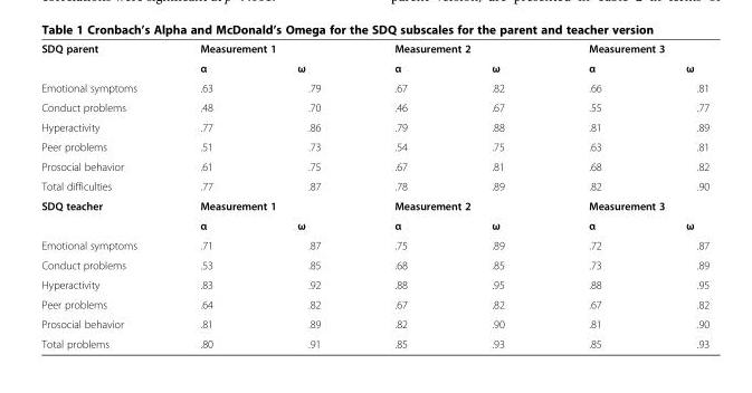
<table><tbody><tr><td rowspan="2">SDQ parent</td><td colspan="2">Measurement 1</td><td colspan="2">Measurement 2</td><td colspan="2">Measurement 3</td></tr><tr><td>α</td><td>ω</td><td>α</td><td>ω</td><td>α</td><td>ω</td></tr><tr><td>Emotional symptoms</td><td>.63</td><td>.79</td><td>.67</td><td>.82</td><td>.66</td><td>.81</td></tr><tr><td>Conduct problems</td><td>.48</td><td>.70</td><td>.46</td><td>.67</td><td>.55</td><td>.77</td></tr><tr><td>Hyperactivity</td><td>.77</td><td>.86</td><td>.79</td><td>.88</td><td>.81</td><td>.89</td></tr><tr><td>Peer problems</td><td>.51</td><td>.73</td><td>.54</td><td>.75</td><td>.63</td><td>.81</td></tr><tr><td>Prosocial behavior</td><td>.61</td><td>.75</td><td>.67</td><td>.81</td><td>.68</td><td>.82</td></tr><tr><td>Total difficulties</td><td>.77</td><td>.87</td><td>.78</td><td>.89</td><td>.82</td><td>.90</td></tr><tr><td rowspan="2">SDQ teacher</td><td colspan="2">Measurement 1</td><td colspan="2">Measurement 2</td><td colspan="2">Measurement 3</td></tr><tr><td>α</td><td>ω</td><td>α</td><td>ω</td><td>α</td><td>ω</td></tr><tr><td>Emotional symptoms</td><td>.71</td><td>.87</td><td>.75</td><td>.89</td><td>.72</td><td>.87</td></tr><tr><td>Conduct problems</td><td>.53</td><td>.85</td><td>.68</td><td>.85</td><td>.73</td><td>.89</td></tr><tr><td>Hyperactivity</td><td>.83</td><td>.92</td><td>.88</td><td>.95</td><td>.88</td><td>.95</td></tr><tr><td>Peer problems</td><td>.64</td><td>.82</td><td>.67</td><td>.82</td><td>.67</td><td>.82</td></tr><tr><td>Prosocial behavior</td><td>.81</td><td>.89</td><td>.82</td><td>.90</td><td>.81</td><td>.90</td></tr><tr><td>Total problems</td><td>.80</td><td>.91</td><td>.85</td><td>.93</td><td>.85</td><td>.93</td></tr></tbody></table>